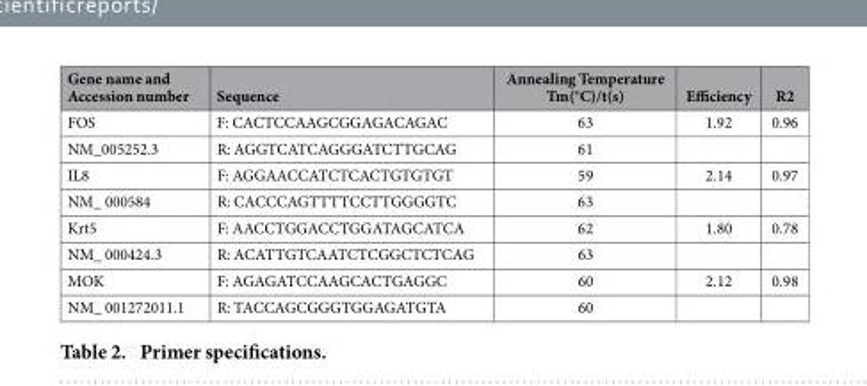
<table><thead><tr><td>Gene name and Accession number</td><td>Sequence</td><td>Annealing Temperature Tm(°C)/t(s)</td><td>Efficiency</td><td>R2</td></tr></thead><tbody><tr><td>FOS</td><td>F: CACTCCAAGCGGAGACAGAC</td><td>63</td><td>1.92</td><td>0.96</td></tr><tr><td>NM_005252.3</td><td>R: AGGTCATCAGGGATCTTGCAG</td><td>61</td><td></td><td></td></tr><tr><td>IL8</td><td>F: AGGAACCATCTCACTGTGTGT</td><td>59</td><td>2.14</td><td>0.97</td></tr><tr><td>NM_ 000584</td><td>R: CACCCAGTTTTCCTTGGGGTC</td><td>63</td><td></td><td></td></tr><tr><td>Krt5</td><td>F: AACCTGGACCTGGATAGCATCA</td><td>62</td><td>1.80</td><td>0.78</td></tr><tr><td>NM_ 000424.3</td><td>R: ACATTGTCAATCTCGGCTCTCAG</td><td>63</td><td></td><td></td></tr><tr><td>MOK</td><td>F: AGAGATCCAAGCACTGAGGC</td><td>60</td><td>2.12</td><td>0.98</td></tr><tr><td>NM_ 001272011.1</td><td>R: TACCAGCGGGTGGAGATGTA</td><td>60</td><td></td><td></td></tr></tbody></table>